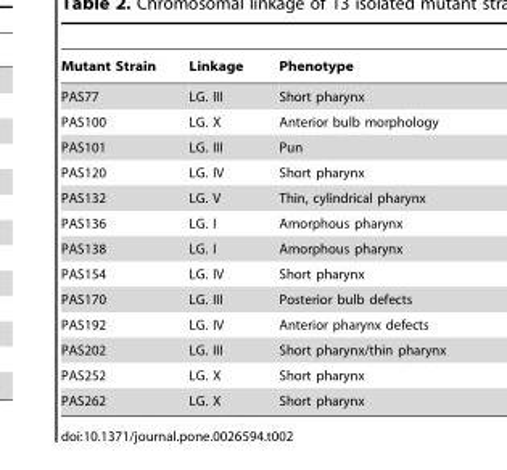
<table><thead><tr><td>Mutant Strain</td><td>Linkage</td><td>Phenotype</td></tr></thead><tbody><tr><td>PAS77</td><td>LG. III</td><td>Short pharynx</td></tr><tr><td>PAS100</td><td>LG. X</td><td>Anterior bulb morphology</td></tr><tr><td>PAS101</td><td>LG. III</td><td>Pun</td></tr><tr><td>PAS120</td><td>LG. IV</td><td>Short pharynx</td></tr><tr><td>PAS132</td><td>LG. V</td><td>Thin, cylindrical pharynx</td></tr><tr><td>PAS136</td><td>LG. I</td><td>Amorphous pharynx</td></tr><tr><td>PAS138</td><td>LG. I</td><td>Amorphous pharynx</td></tr><tr><td>PAS154</td><td>LG. IV</td><td>Short pharynx</td></tr><tr><td>PAS170</td><td>LG. III</td><td>Posterior bulb defects</td></tr><tr><td>PAS192</td><td>LG. IV</td><td>Anterior pharynx defects</td></tr><tr><td>PAS202</td><td>LG. III</td><td>Short pharynx/thin pharynx</td></tr><tr><td>PAS252</td><td>LG. X</td><td>Short pharynx</td></tr><tr><td>PAS262</td><td>LG. X</td><td>Short pharynx</td></tr></tbody></table>